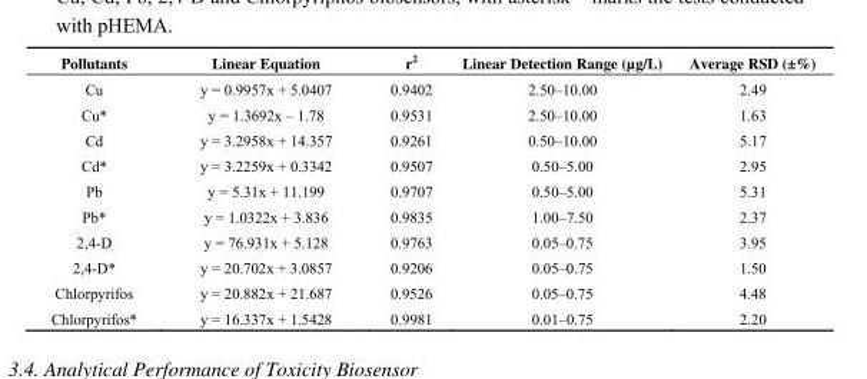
<table><thead><tr><td>Pollutants</td><td>Linear Equation</td><td>r<sup>2</sup></td><td>Linear Detection Range (µg/L)</td><td>Average RSD (±%)</td></tr></thead><tbody><tr><td>Cu</td><td>y = 0.9957x + 5.0407</td><td>0.9402</td><td>2.50–10.00</td><td>2.49</td></tr><tr><td>Cu*</td><td>y = 1.3692x – 1.78</td><td>0.9531</td><td>2.50–10.00</td><td>1.63</td></tr><tr><td>Cd</td><td>y = 3.2958x + 14.357</td><td>0.9261</td><td>0.50–10.00</td><td>5.17</td></tr><tr><td>Cd*</td><td>y = 3.2259x + 0.3342</td><td>0.9507</td><td>0.50–5.00</td><td>2.95</td></tr><tr><td>Pb</td><td>y = 5.31x + 11.199</td><td>0.9707</td><td>0.50–5.00</td><td>5.31</td></tr><tr><td>Pb*</td><td>y = 1.0322x + 3.836</td><td>0.9835</td><td>1.00–7.50</td><td>2.37</td></tr><tr><td>2,4-D</td><td>y = 76.931x + 5.128</td><td>0.9763</td><td>0.05–0.75</td><td>3.95</td></tr><tr><td>2,4-D*</td><td>y = 20.702x + 3.0857</td><td>0.9206</td><td>0.05–0.75</td><td>1.50</td></tr><tr><td>Chlorpyrifos</td><td>y = 20.882x + 21.687</td><td>0.9526</td><td>0.05–0.75</td><td>4.48</td></tr><tr><td>Chlorpyrifos*</td><td>y = 16.337x + 1.5428</td><td>0.9981</td><td>0.01–0.75</td><td>2.20</td></tr></tbody></table>